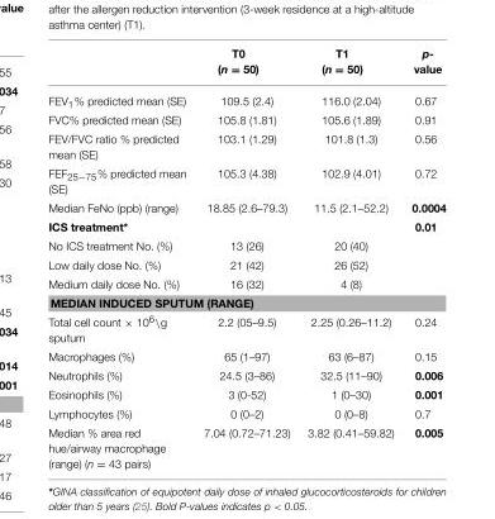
<table><thead><tr><td></td><td>T0 (n = 50)</td><td>T1 (n = 50)</td><td>p- value</td></tr></thead><tbody><tr><td>FEV<sub>1</sub>% predicted mean (SE)</td><td>109.5 (2.4)</td><td>116.0 (2.04)</td><td>0.67</td></tr><tr><td>FVC% predicted mean (SE)</td><td>105.8 (1.81)</td><td>105.6 (1.89)</td><td>0.91</td></tr><tr><td>FEV/FVC ratio % predicted mean (SE)</td><td>103.1 (1.29)</td><td>101.8 (1.3)</td><td>0.56</td></tr><tr><td>FEF<sub>25−75</sub>% predicted mean (SE)</td><td>105.3 (4.38)</td><td>102.9 (4.01)</td><td>0.72</td></tr><tr><td>Median FeNo (ppb) (range)</td><td>18.85 (2.6–79.3)</td><td>11.5 (2.1–52.2)</td><td>0.0004</td></tr><tr><td>ICS treatment*</td><td></td><td></td><td>0.01</td></tr><tr><td>No ICS treatment No. (%)</td><td>13 (26)</td><td>20 (40)</td><td></td></tr><tr><td>Low daily dose No. (%)</td><td>21 (42)</td><td>26 (52)</td><td></td></tr><tr><td>Medium daily dose No. (%)</td><td>16 (32)</td><td>4 (8)</td><td></td></tr><tr><td colspan="4">MEDIAN INDUCED SPUTUM (RANGE)</td></tr><tr><td>Total cell count × 10<sup>6</sup>\g sputum</td><td>2.2 (05–9.5)</td><td>2.25 (0.26–11.2)</td><td>0.24</td></tr><tr><td>Macrophages (%)</td><td>65 (1–97)</td><td>63 (6–87)</td><td>0.15</td></tr><tr><td>Neutrophils (%)</td><td>24.5 (3–86)</td><td>32.5 (11–90)</td><td>0.006</td></tr><tr><td>Eosinophils (%)</td><td>3 (0-52)</td><td>1 (0–30)</td><td>0.001</td></tr><tr><td>Lymphocytes (%)</td><td>0 (0–2)</td><td>0 (0–8)</td><td>0.7</td></tr><tr><td>Median % area red hue/airway macrophage (range) (n = 43 pairs)</td><td>7.04 (0.72–71.23)</td><td>3.82 (0.41–59.82)</td><td>0.005</td></tr></tbody></table>